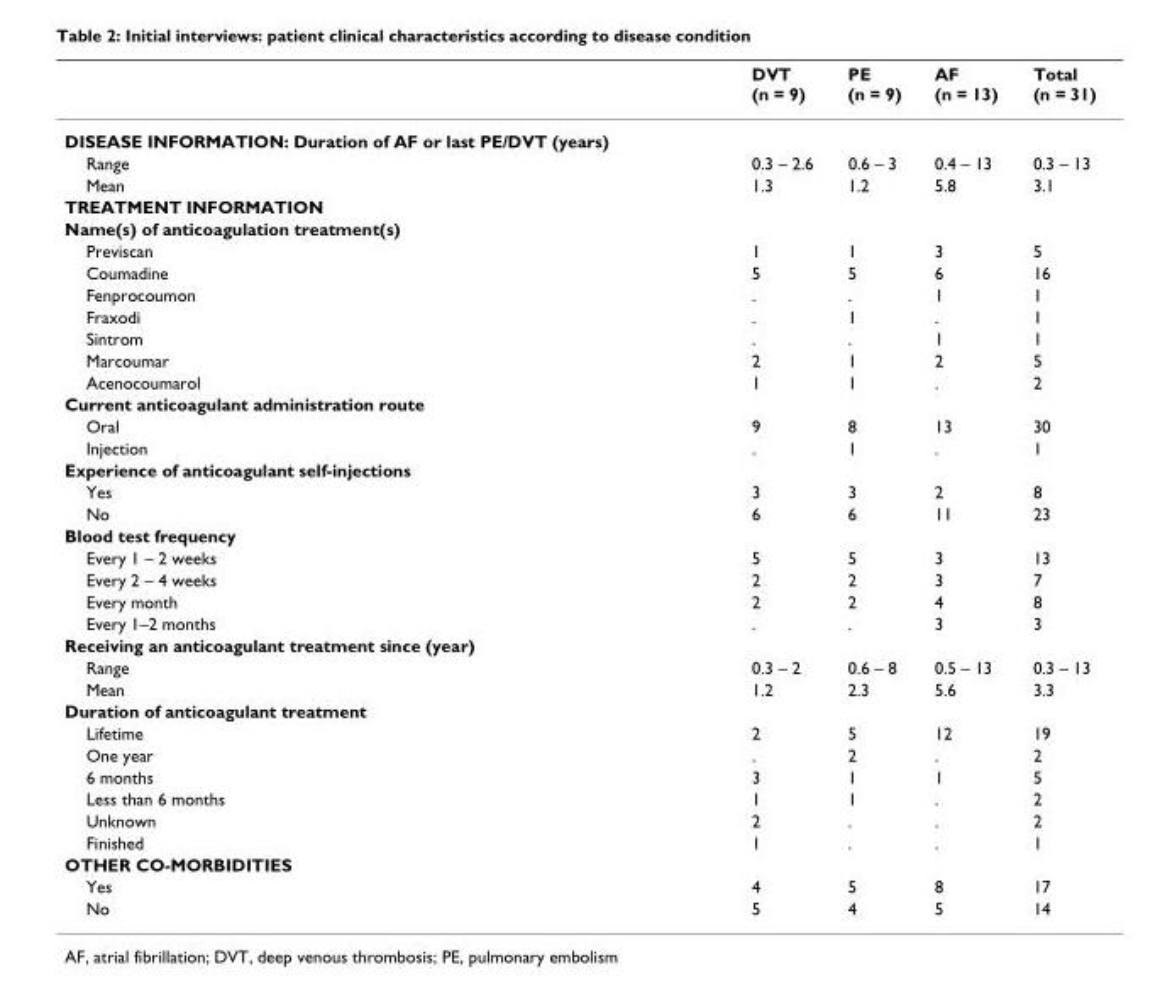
<table><thead><tr><td></td><td>DVT (n = 9)</td><td>PE (n = 9)</td><td>AF (n = 13)</td><td>Total (n = 31)</td></tr></thead><tbody><tr><td colspan="5">DISEASE INFORMATION: Duration of AF or last PE/DVT (years)</td></tr><tr><td>Range</td><td>0.3 – 2.6</td><td>0.6 – 3</td><td>0.4 – 13</td><td>0.3 – 13</td></tr><tr><td>Mean</td><td>1.3</td><td>1.2</td><td>5.8</td><td>3.1</td></tr><tr><td colspan="5">TREATMENT INFORMATION</td></tr><tr><td colspan="5">Name(s) of anticoagulation treatment(s)</td></tr><tr><td>Previscan</td><td>1</td><td>1</td><td>3</td><td>5</td></tr><tr><td>Coumadine</td><td>5</td><td>5</td><td>6</td><td>16</td></tr><tr><td>Fenprocoumon</td><td>.</td><td>.</td><td>1</td><td>1</td></tr><tr><td>Fraxodi</td><td>.</td><td>1</td><td>.</td><td>1</td></tr><tr><td>Sintrom</td><td>.</td><td>.</td><td>1</td><td>1</td></tr><tr><td>Marcoumar</td><td>2</td><td>1</td><td>2</td><td>5</td></tr><tr><td>Acenocoumarol</td><td>1</td><td>1</td><td>.</td><td>2</td></tr><tr><td colspan="5">Current anticoagulant administration route</td></tr><tr><td>Oral</td><td>9</td><td>8</td><td>13</td><td>30</td></tr><tr><td>Injection</td><td>.</td><td>1</td><td>.</td><td>1</td></tr><tr><td colspan="5">Experience of anticoagulant self-injections</td></tr><tr><td>Yes</td><td>3</td><td>3</td><td>2</td><td>8</td></tr><tr><td>No</td><td>6</td><td>6</td><td>11</td><td>23</td></tr><tr><td colspan="5">Blood test frequency</td></tr><tr><td>Every 1 – 2 weeks</td><td>5</td><td>5</td><td>3</td><td>13</td></tr><tr><td>Every 2 – 4 weeks</td><td>2</td><td>2</td><td>3</td><td>7</td></tr><tr><td>Every month</td><td>2</td><td>2</td><td>4</td><td>8</td></tr><tr><td>Every 1–2 months</td><td>.</td><td>.</td><td>3</td><td>3</td></tr><tr><td colspan="5">Receiving an anticoagulant treatment since (year)</td></tr><tr><td>Range</td><td>0.3 – 2</td><td>0.6 – 8</td><td>0.5 – 13</td><td>0.3 – 13</td></tr><tr><td>Mean</td><td>1.2</td><td>2.3</td><td>5.6</td><td>3.3</td></tr><tr><td colspan="5">Duration of anticoagulant treatment</td></tr><tr><td>Lifetime</td><td>2</td><td>5</td><td>12</td><td>19</td></tr><tr><td>One year</td><td>.</td><td>2</td><td>.</td><td>2</td></tr><tr><td>6 months</td><td>3</td><td>1</td><td>1</td><td>5</td></tr><tr><td>Less than 6 months</td><td>1</td><td>1</td><td>.</td><td>2</td></tr><tr><td>Unknown</td><td>2</td><td>.</td><td>.</td><td>2</td></tr><tr><td>Finished</td><td>1</td><td>.</td><td>.</td><td>1</td></tr><tr><td colspan="5">OTHER CO-MORBIDITIES</td></tr><tr><td>Yes</td><td>4</td><td>5</td><td>8</td><td>17</td></tr><tr><td>No</td><td>5</td><td>4</td><td>5</td><td>14</td></tr></tbody></table>